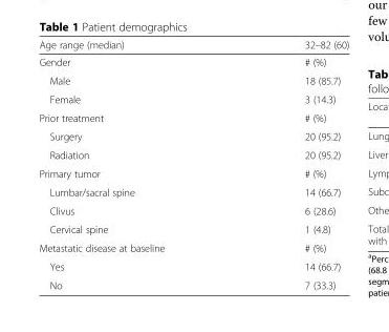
<table><thead><tr><td>Age range (median)</td><td>32–82 (60)</td></tr></thead><tbody><tr><td>Gender</td><td># (%)</td></tr><tr><td>Male</td><td>18 (85.7)</td></tr><tr><td>Female</td><td>3 (14.3)</td></tr><tr><td>Prior treatment</td><td># (%)</td></tr><tr><td>Surgery</td><td>20 (95.2)</td></tr><tr><td>Radiation</td><td>20 (95.2)</td></tr><tr><td>Primary tumor</td><td># (%)</td></tr><tr><td>Lumbar/sacral spine</td><td>14 (66.7)</td></tr><tr><td>Clivus</td><td>6 (28.6)</td></tr><tr><td>Cervical spine</td><td>1 (4.8)</td></tr><tr><td>Metastatic disease at baseline</td><td># (%)</td></tr><tr><td>Yes</td><td>14 (66.7)</td></tr><tr><td>No</td><td>7 (33.3)</td></tr></tbody></table>